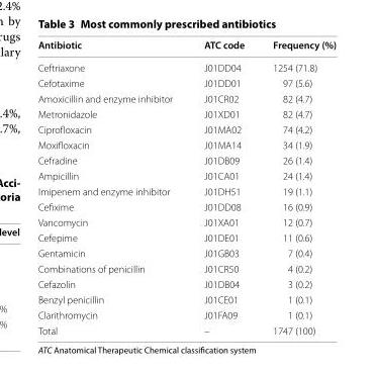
<table><thead><tr><td>Antibiotic</td><td>ATC code</td><td>Frequency (%)</td></tr></thead><tbody><tr><td>Ceftriaxone</td><td>J01DD04</td><td>1254 (71.8)</td></tr><tr><td>Cefotaxime</td><td>J01DD01</td><td>97 (5.6)</td></tr><tr><td>Amoxicillin and enzyme inhibitor</td><td>J01CR02</td><td>82 (4.7)</td></tr><tr><td>Metronidazole</td><td>J01XD01</td><td>82 (4.7)</td></tr><tr><td>Ciprofloxacin</td><td>J01MA02</td><td>74 (4.2)</td></tr><tr><td>Moxifloxacin</td><td>J01MA14</td><td>34 (1.9)</td></tr><tr><td>Cefradine</td><td>J01DB09</td><td>26 (1.4)</td></tr><tr><td>Ampicillin</td><td>J01CA01</td><td>24 (1.4)</td></tr><tr><td>Imipenem and enzyme inhibitor</td><td>J01DH51</td><td>19 (1.1)</td></tr><tr><td>Cefixime</td><td>J01DD08</td><td>16 (0.9)</td></tr><tr><td>Vancomycin</td><td>J01XA01</td><td>12 (0.7)</td></tr><tr><td>Cefepime</td><td>J01DE01</td><td>11 (0.6)</td></tr><tr><td>Gentamicin</td><td>J01GB03</td><td>7 (0.4)</td></tr><tr><td>Combinations of penicillin</td><td>J01CR50</td><td>4 (0.2)</td></tr><tr><td>Cefazolin</td><td>J01DB04</td><td>3 (0.2)</td></tr><tr><td>Benzyl penicillin</td><td>J01CE01</td><td>1 (0.1)</td></tr><tr><td>Clarithromycin</td><td>J01FA09</td><td>1 (0.1)</td></tr><tr><td>Total</td><td>–</td><td>1747 (100)</td></tr></tbody></table>